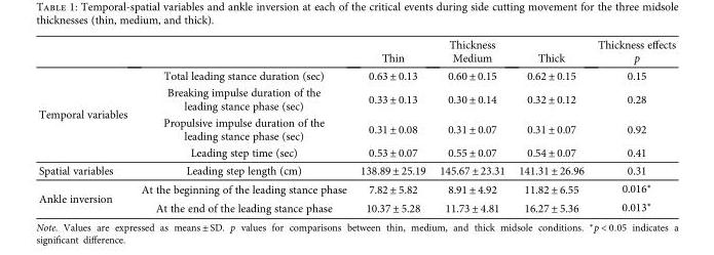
<table><thead><tr><td rowspan="2"></td><td rowspan="2"></td><td colspan="3">Thickness</td><td rowspan="2">Thickness effects p</td></tr><tr><td>Thin</td><td>Medium</td><td>Thick</td></tr></thead><tbody><tr><td rowspan="4">Temporal variables</td><td>Total leading stance duration (sec)</td><td>0.63 ± 0.13</td><td>0.60 ± 0.15</td><td>0.62 ± 0.15</td><td>0.15</td></tr><tr><td>Breaking impulse duration of the leading stance phase (sec)</td><td>0.33 ± 0.13</td><td>0.30 ± 0.14</td><td>0.32 ± 0.12</td><td>0.28</td></tr><tr><td>Propulsive impulse duration of the leading stance phase (sec)</td><td>0.31 ± 0.08</td><td>0.31 ± 0.07</td><td>0.31 ± 0.07</td><td>0.92</td></tr><tr><td>Leading step time (sec)</td><td>0.53 ± 0.07</td><td>0.55 ± 0.07</td><td>0.54 ± 0.07</td><td>0.41</td></tr><tr><td>Spatial variables</td><td>Leading step length (cm)</td><td>138.89 ± 25.19</td><td>145.67 ± 23.31</td><td>141.31 ± 26.96</td><td>0.31</td></tr><tr><td rowspan="2">Ankle inversion</td><td>At the beginning of the leading stance phase</td><td>7.82 ± 5.82</td><td>8.91 ± 4.92</td><td>11.82 ± 6.55</td><td>0.016∗</td></tr><tr><td>At the end of the leading stance phase</td><td>10.37 ± 5.28</td><td>11.73 ± 4.81</td><td>16.27 ± 5.36</td><td>0.013∗</td></tr></tbody></table>